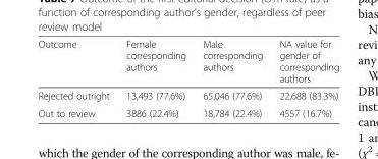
<table><thead><tr><td>Outcome</td><td>Female corresponding authors</td><td>Male corresponding authors</td><td>NA value for gender of corresponding authors</td></tr></thead><tbody><tr><td>Rejected outright</td><td>13,493 (77.6%)</td><td>65,046 (77.6%)</td><td>22,688 (83.3%)</td></tr><tr><td>Out to review</td><td>3886 (22.4%)</td><td>18,784 (22.4%)</td><td>4557 (16.7%)</td></tr></tbody></table>